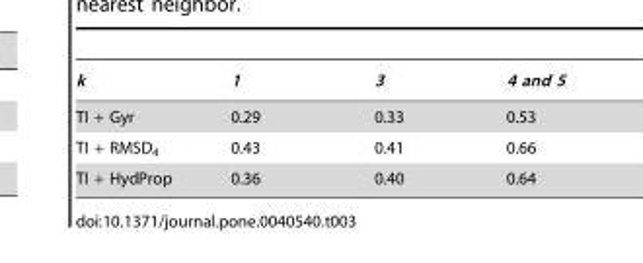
<table><thead><tr><td>k</td><td>1</td><td>3</td><td>4 and 5</td></tr></thead><tbody><tr><td>TI + Gyr</td><td>0.29</td><td>0.33</td><td>0.53</td></tr><tr><td>TI + RMSD<sub>4</sub></td><td>0.43</td><td>0.41</td><td>0.66</td></tr><tr><td>TI + HydProp</td><td>0.36</td><td>0.40</td><td>0.64</td></tr></tbody></table>